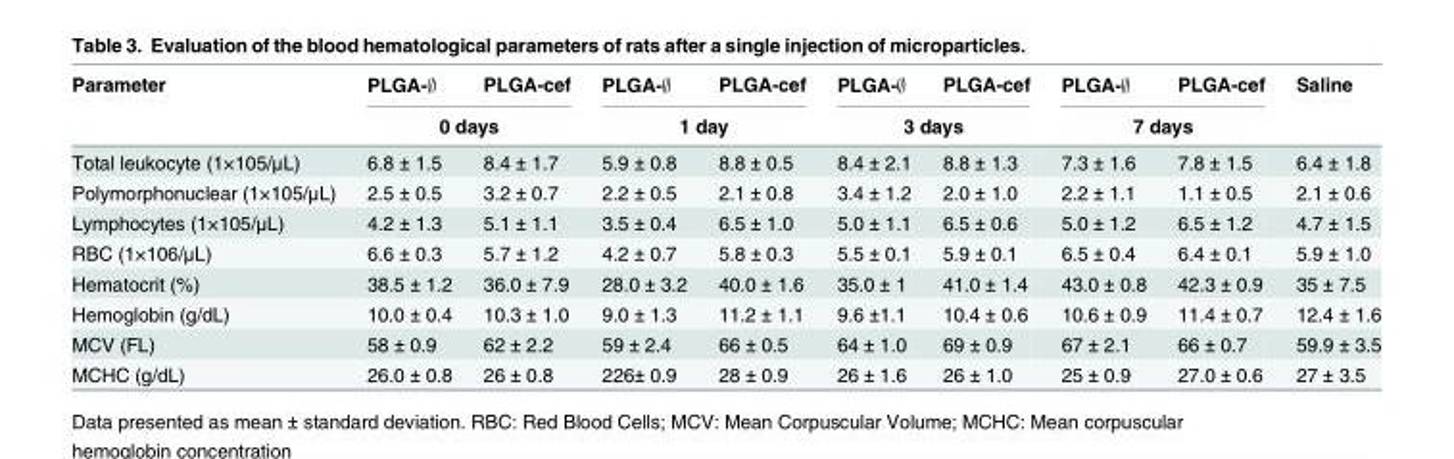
<table><thead><tr><td rowspan="2">Parameter</td><td>PLGA-∅</td><td>PLGA-cef</td><td>PLGA-∅</td><td>PLGA-cef</td><td>PLGA-∅</td><td>PLGA-cef</td><td>PLGA-∅</td><td>PLGA-cef</td><td rowspan="2">Saline</td></tr><tr><td colspan="2">0 days</td><td colspan="2">1 day</td><td colspan="2">3 days</td><td colspan="2">7 days</td></tr></thead><tbody><tr><td>Total leukocyte (1×105/μL)</td><td>6.8 ± 1.5</td><td>8.4 ± 1.7</td><td>5.9 ± 0.8</td><td>8.8 ± 0.5</td><td>8.4 ± 2.1</td><td>8.8 ± 1.3</td><td>7.3 ± 1.6</td><td>7.8 ± 1.5</td><td>6.4 ± 1.8</td></tr><tr><td>Polymorphonuclear (1×105/μL)</td><td>2.5 ± 0.5</td><td>3.2 ± 0.7</td><td>2.2 ± 0.5</td><td>2.1 ± 0.8</td><td>3.4 ± 1.2</td><td>2.0 ± 1.0</td><td>2.2 ± 1.1</td><td>1.1 ± 0.5</td><td>2.1 ± 0.6</td></tr><tr><td>Lymphocytes (1×105/μL)</td><td>4.2 ± 1.3</td><td>5.1 ± 1.1</td><td>3.5 ± 0.4</td><td>6.5 ± 1.0</td><td>5.0 ± 1.1</td><td>6.5 ± 0.6</td><td>5.0 ± 1.2</td><td>6.5 ± 1.2</td><td>4.7 ± 1.5</td></tr><tr><td>RBC (1×106/μL)</td><td>6.6 ± 0.3</td><td>5.7 ± 1.2</td><td>4.2 ± 0.7</td><td>5.8 ± 0.3</td><td>5.5 ± 0.1</td><td>5.9 ± 0.1</td><td>6.5 ± 0.4</td><td>6.4 ± 0.1</td><td>5.9 ± 1.0</td></tr><tr><td>Hematocrit (%)</td><td>38.5 ± 1.2</td><td>36.0 ± 7.9</td><td>28.0 ± 3.2</td><td>40.0 ± 1.6</td><td>35.0 ± 1</td><td>41.0 ± 1.4</td><td>43.0 ± 0.8</td><td>42.3 ± 0.9</td><td>35 ± 7.5</td></tr><tr><td>Hemoglobin (g/dL)</td><td>10.0 ± 0.4</td><td>10.3 ± 1.0</td><td>9.0 ± 1.3</td><td>11.2 ± 1.1</td><td>9.6 ±1.1</td><td>10.4 ± 0.6</td><td>10.6 ± 0.9</td><td>11.4 ± 0.7</td><td>12.4 ± 1.6</td></tr><tr><td>MCV (FL)</td><td>58 ± 0.9</td><td>62 ± 2.2</td><td>59 ± 2.4</td><td>66 ± 0.5</td><td>64 ± 1.0</td><td>69 ± 0.9</td><td>67 ± 2.1</td><td>66 ± 0.7</td><td>59.9 ± 3.5</td></tr><tr><td>MCHC (g/dL)</td><td>26.0 ± 0.8</td><td>26 ± 0.8</td><td>226± 0.9</td><td>28 ± 0.9</td><td>26 ± 1.6</td><td>26 ± 1.0</td><td>25 ± 0.9</td><td>27.0 ± 0.6</td><td>27 ± 3.5</td></tr></tbody></table>